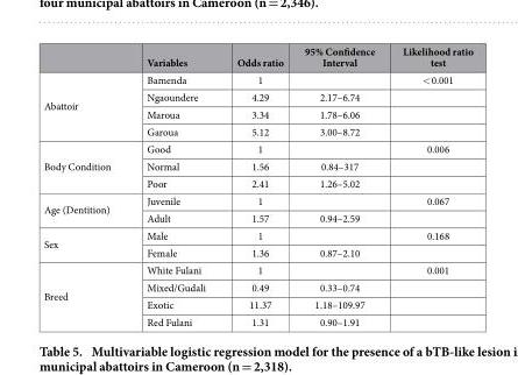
<table><thead><tr><td></td><td>Variables</td><td>Odds ratio</td><td>95% Confidence Interval</td><td>Likelihood ratio test</td></tr></thead><tbody><tr><td rowspan="4">Abattoir</td><td>Bamenda</td><td>1</td><td></td><td>&lt; 0.001</td></tr><tr><td>Ngaoundere</td><td>4.29</td><td>2.17–6.74</td><td></td></tr><tr><td>Maroua</td><td>3.34</td><td>1.78–6.06</td><td></td></tr><tr><td>Garoua</td><td>5.12</td><td>3.00–8.72</td><td></td></tr><tr><td rowspan="3">Body Condition</td><td>Good</td><td>1</td><td></td><td>0.006</td></tr><tr><td>Normal</td><td>1.56</td><td>0.84–317</td><td></td></tr><tr><td>Poor</td><td>2.41</td><td>1.26–5.02</td><td></td></tr><tr><td rowspan="2">Age (Dentition)</td><td>Juvenile</td><td>1</td><td></td><td>0.067</td></tr><tr><td>Adult</td><td>1.57</td><td>0.94–2.59</td><td></td></tr><tr><td rowspan="2">Sex</td><td>Male</td><td>1</td><td></td><td>0.168</td></tr><tr><td>Female</td><td>1.36</td><td>0.87–2.10</td><td></td></tr><tr><td rowspan="4">Breed</td><td>White Fulani</td><td>1</td><td></td><td>0.001</td></tr><tr><td>Mixed/Gudali</td><td>0.49</td><td>0.33–0.74</td><td></td></tr><tr><td>Exotic</td><td>11.37</td><td>1.18–109.97</td><td></td></tr><tr><td>Red Fulani</td><td>1.31</td><td>0.90–1.91</td><td></td></tr></tbody></table>